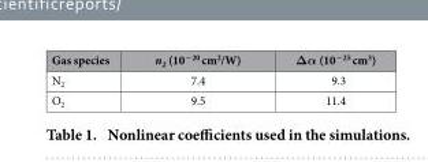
<table><thead><tr><td>Gas species</td><td>n<sub>2</sub> (10<sup>−20</sup> cm<sup>2</sup>/W)</td><td>Δα (10<sup>−25</sup> cm<sup>3</sup>)</td></tr></thead><tbody><tr><td>N<sub>2</sub></td><td>7.4</td><td>9.3</td></tr><tr><td>O<sub>2</sub></td><td>9.5</td><td>11.4</td></tr></tbody></table>